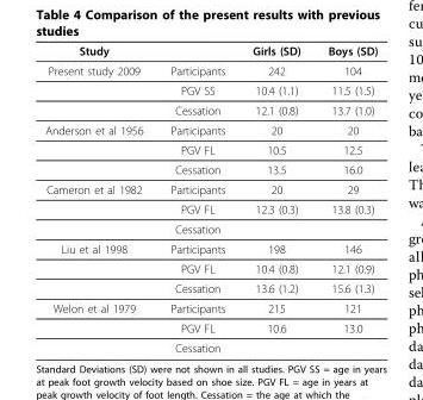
<table><thead><tr><td>Study</td><td></td><td>Girls (SD)</td><td>Boys (SD)</td></tr></thead><tbody><tr><td rowspan="3">Present study 2009</td><td>Participants</td><td>242</td><td>104</td></tr><tr><td>PGV SS</td><td>10.4 (1.1)</td><td>11.5 (1.5)</td></tr><tr><td>Cessation</td><td>12.1 (0.8)</td><td>13.7 (1.0)</td></tr><tr><td rowspan="3">Anderson et al 1956</td><td>Participants</td><td>20</td><td>20</td></tr><tr><td>PGV FL</td><td>10.5</td><td>12.5</td></tr><tr><td>Cessation</td><td>13.5</td><td>16.0</td></tr><tr><td rowspan="3">Cameron et al 1982</td><td>Participants</td><td>20</td><td>29</td></tr><tr><td>PGV FL</td><td>12.3 (0.3)</td><td>13.8 (0.3)</td></tr><tr><td>Cessation</td><td></td><td></td></tr><tr><td rowspan="3">Liu et al 1998</td><td>Participants</td><td>198</td><td>146</td></tr><tr><td>PGV FL</td><td>10.4 (0.8)</td><td>12.1 (0.9)</td></tr><tr><td>Cessation</td><td>13.6 (1.2)</td><td>15.6 (1.3)</td></tr><tr><td rowspan="3">Welon et al 1979</td><td>Participants</td><td>215</td><td>121</td></tr><tr><td>PGV FL</td><td>10.6</td><td>13.0</td></tr><tr><td>Cessation</td><td></td><td></td></tr></tbody></table>